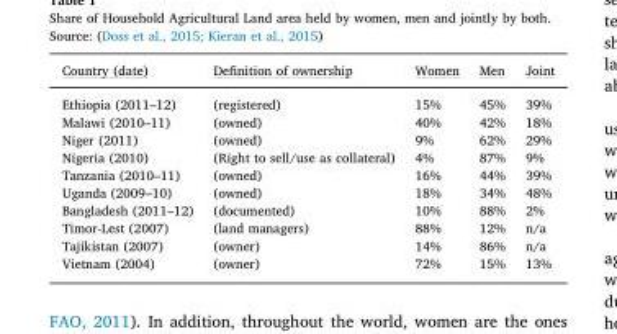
<table><thead><tr><td>Country (date)</td><td>Definition of ownership</td><td>Women</td><td>Men</td><td>Joint</td></tr></thead><tbody><tr><td>Ethiopia (2011–12)</td><td>(registered)</td><td>15%</td><td>45%</td><td>39%</td></tr><tr><td>Malawi (2010–11)</td><td>(owned)</td><td>40%</td><td>42%</td><td>18%</td></tr><tr><td>Niger (2011)</td><td>(owned)</td><td>9%</td><td>62%</td><td>29%</td></tr><tr><td>Nigeria (2010)</td><td>(Right to sell/use as collateral)</td><td>4%</td><td>87%</td><td>9%</td></tr><tr><td>Tanzania (2010–11)</td><td>(owned)</td><td>16%</td><td>44%</td><td>39%</td></tr><tr><td>Uganda (2009–10)</td><td>(owned)</td><td>18%</td><td>34%</td><td>48%</td></tr><tr><td>Bangladesh (2011–12)</td><td>(documented)</td><td>10%</td><td>88%</td><td>2%</td></tr><tr><td>Timor-Lest (2007)</td><td>(land managers)</td><td>88%</td><td>12%</td><td>n/a</td></tr><tr><td>Tajikistan (2007)</td><td>(owner)</td><td>14%</td><td>86%</td><td>n/a</td></tr><tr><td>Vietnam (2004)</td><td>(owner)</td><td>72%</td><td>15%</td><td>13%</td></tr></tbody></table>